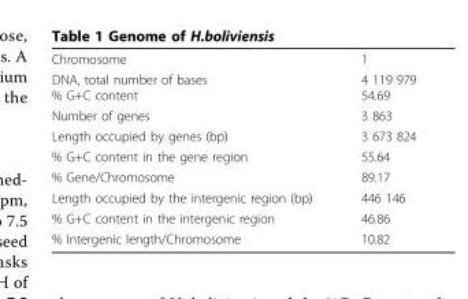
<table><tbody><tr><td>Chromosome</td><td>1</td></tr><tr><td>DNA, total number of bases % G+C content</td><td>4 119 979 54.69</td></tr><tr><td>Number of genes</td><td>3 863</td></tr><tr><td>Length occupied by genes (bp)</td><td>3 673 824</td></tr><tr><td>% G+C content in the gene region</td><td>55.64</td></tr><tr><td>% Gene/Chromosome</td><td>89.17</td></tr><tr><td>Length occupied by the intergenic region (bp)</td><td>446 146</td></tr><tr><td>% G+C content in the intergenic region</td><td>46.86</td></tr><tr><td>% Intergenic length/Chromosome</td><td>10.82</td></tr></tbody></table>